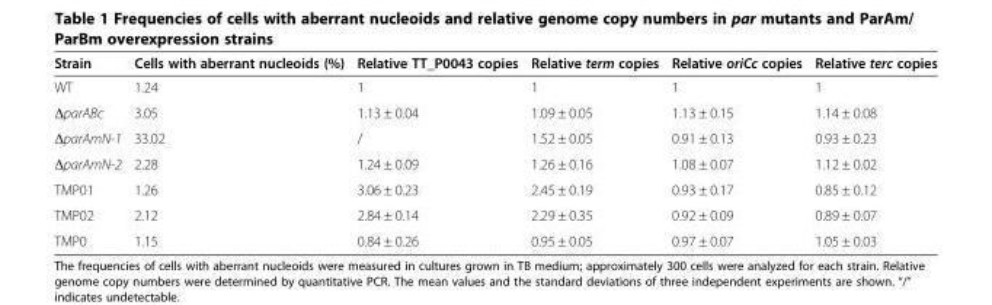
<table><thead><tr><td>Strain</td><td>Cells with aberrant nucleoids (%)</td><td>Relative TT_P0043 copies</td><td>Relative term copies</td><td>Relative oriCc copies</td><td>Relative terc copies</td></tr></thead><tbody><tr><td>WT</td><td>1.24</td><td>1</td><td>1</td><td>1</td><td>1</td></tr><tr><td>ΔparABc</td><td>3.05</td><td>1.13 ± 0.04</td><td>1.09 ± 0.05</td><td>1.13 ± 0.15</td><td>1.14 ± 0.08</td></tr><tr><td>ΔparAmN-1</td><td>33.02</td><td>/</td><td>1.52 ± 0.05</td><td>0.91 ± 0.13</td><td>0.93 ± 0.23</td></tr><tr><td>ΔparAmN-2</td><td>2.28</td><td>1.24 ± 0.09</td><td>1.26 ± 0.16</td><td>1.08 ± 0.07</td><td>1.12 ± 0.02</td></tr><tr><td>TMP01</td><td>1.26</td><td>3.06 ± 0.23</td><td>2.45 ± 0.19</td><td>0.93 ± 0.17</td><td>0.85 ± 0.12</td></tr><tr><td>TMP02</td><td>2.12</td><td>2.84 ± 0.14</td><td>2.29 ± 0.35</td><td>0.92 ± 0.09</td><td>0.89 ± 0.07</td></tr><tr><td>TMP0</td><td>1.15</td><td>0.84 ± 0.26</td><td>0.95 ± 0.05</td><td>0.97 ± 0.07</td><td>1.05 ± 0.03</td></tr></tbody></table>